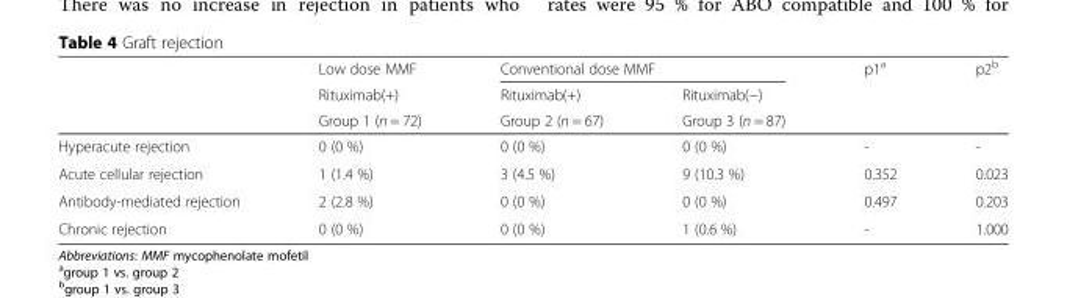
<table><thead><tr><td rowspan="3"></td><td rowspan="3">Low dose MMF Rituximab(+) Group 1 (n = 72)</td><td colspan="2">Conventional dose MMF</td><td rowspan="3">p1<sup>a</sup></td><td rowspan="3">p2<sup>b</sup></td></tr><tr><td rowspan="2">Rituximab(+) Group 2 (n = 67)</td><td rowspan="2">Rituximab(−) Group 3 (n = 87)</td></tr><tr></tr></thead><tbody><tr><td>Hyperacute rejection</td><td>0 (0 %)</td><td>0 (0 %)</td><td>0 (0 %)</td><td>-</td><td>-</td></tr><tr><td>Acute cellular rejection</td><td>1 (1.4 %)</td><td>3 (4.5 %)</td><td>9 (10.3 %)</td><td>0.352</td><td>0.023</td></tr><tr><td>Antibody-mediated rejection</td><td>2 (2.8 %)</td><td>0 (0 %)</td><td>0 (0 %)</td><td>0.497</td><td>0.203</td></tr><tr><td>Chronic rejection</td><td>0 (0 %)</td><td>0 (0 %)</td><td>1 (0.6 %)</td><td>-</td><td>1.000</td></tr></tbody></table>